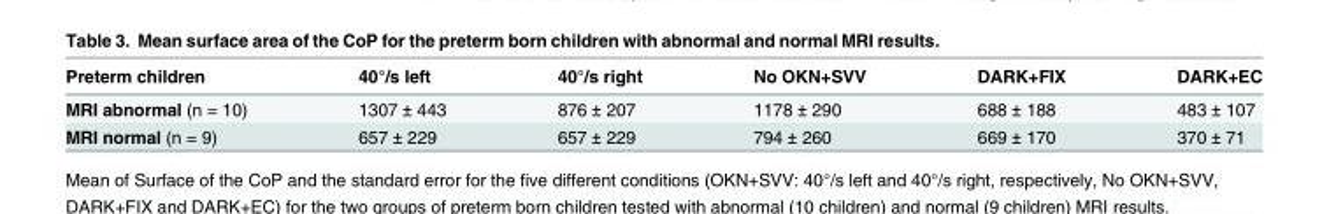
<table><thead><tr><td>Preterm children</td><td>40°/s left</td><td>40°/s right</td><td>No OKN+SVV</td><td>DARK+FIX</td><td>DARK+EC</td></tr></thead><tbody><tr><td>MRI abnormal (n = 10)</td><td>1307 ± 443</td><td>876 ± 207</td><td>1178 ± 290</td><td>688 ± 188</td><td>483 ± 107</td></tr><tr><td>MRI normal (n = 9)</td><td>657 ± 229</td><td>657 ± 229</td><td>794 ± 260</td><td>669 ± 170</td><td>370 ± 71</td></tr></tbody></table>